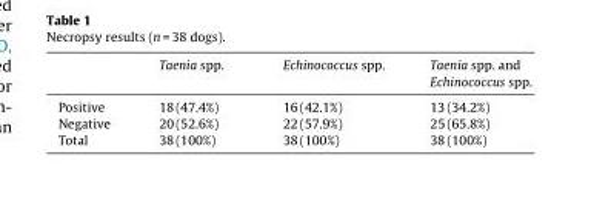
<table><thead><tr><td></td><td>Taenia spp.</td><td>Echinococcus spp.</td><td>Taenia spp. and Echinococcus spp.</td></tr></thead><tbody><tr><td>Positive</td><td>18 (47.4%)</td><td>16 (42.1%)</td><td>13 (34.2%)</td></tr><tr><td>Negative</td><td>20 (52.6%)</td><td>22 (57.9%)</td><td>25 (65.8%)</td></tr><tr><td>Total</td><td>38 (100%)</td><td>38 (100%)</td><td>38 (100%)</td></tr></tbody></table>